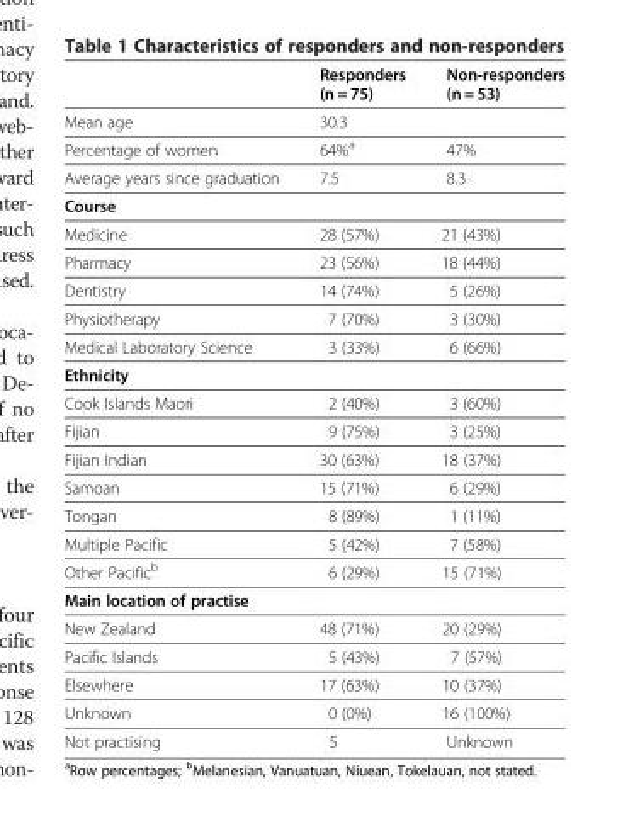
<table><thead><tr><td></td><td>Responders (n = 75)</td><td>Non-responders (n = 53)</td></tr></thead><tbody><tr><td>Mean age</td><td>30.3</td><td></td></tr><tr><td>Percentage of women</td><td>64%<sup>a</sup></td><td>47%</td></tr><tr><td>Average years since graduation</td><td>7.5</td><td>8.3</td></tr><tr><td colspan="3">Course</td></tr><tr><td>Medicine</td><td>28 (57%)</td><td>21 (43%)</td></tr><tr><td>Pharmacy</td><td>23 (56%)</td><td>18 (44%)</td></tr><tr><td>Dentistry</td><td>14 (74%)</td><td>5 (26%)</td></tr><tr><td>Physiotherapy</td><td>7 (70%)</td><td>3 (30%)</td></tr><tr><td>Medical Laboratory Science</td><td>3 (33%)</td><td>6 (66%)</td></tr><tr><td colspan="3">Ethnicity</td></tr><tr><td>Cook Islands Maori</td><td>2 (40%)</td><td>3 (60%)</td></tr><tr><td>Fijian</td><td>9 (75%)</td><td>3 (25%)</td></tr><tr><td>Fijian Indian</td><td>30 (63%)</td><td>18 (37%)</td></tr><tr><td>Samoan</td><td>15 (71%)</td><td>6 (29%)</td></tr><tr><td>Tongan</td><td>8 (89%)</td><td>1 (11%)</td></tr><tr><td>Multiple Pacific</td><td>5 (42%)</td><td>7 (58%)</td></tr><tr><td>Other Pacific<sup>b</sup></td><td>6 (29%)</td><td>15 (71%)</td></tr><tr><td colspan="3">Main location of practise</td></tr><tr><td>New Zealand</td><td>48 (71%)</td><td>20 (29%)</td></tr><tr><td>Pacific Islands</td><td>5 (43%)</td><td>7 (57%)</td></tr><tr><td>Elsewhere</td><td>17 (63%)</td><td>10 (37%)</td></tr><tr><td>Unknown</td><td>0 (0%)</td><td>16 (100%)</td></tr><tr><td>Not practising</td><td>5</td><td>Unknown</td></tr></tbody></table>